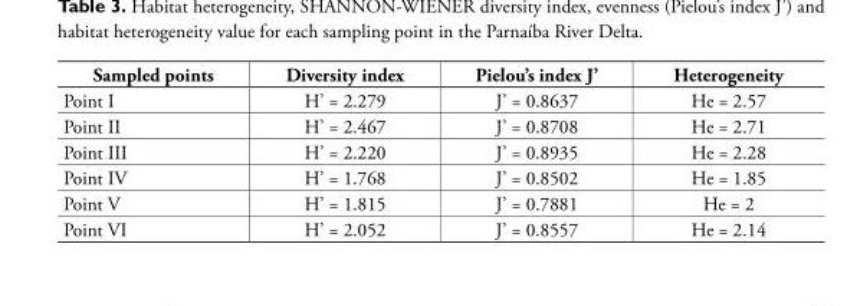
<table><thead><tr><td>Sampled points</td><td>Diversity index</td><td>Pielou’s index J’</td><td>Heterogeneity</td></tr></thead><tbody><tr><td>Point I</td><td>H’ = 2.279</td><td>J’ = 0.8637</td><td>He = 2.57</td></tr><tr><td>Point II</td><td>H’ = 2.467</td><td>J’ = 0.8708</td><td>He = 2.71</td></tr><tr><td>Point III</td><td>H’ = 2.220</td><td>J’ = 0.8935</td><td>He = 2.28</td></tr><tr><td>Point IV</td><td>H’ = 1.768</td><td>J’ = 0.8502</td><td>He = 1.85</td></tr><tr><td>Point V</td><td>H’ = 1.815</td><td>J’ = 0.7881</td><td>He = 2</td></tr><tr><td>Point VI</td><td>H’ = 2.052</td><td>J’ = 0.8557</td><td>He = 2.14</td></tr></tbody></table>